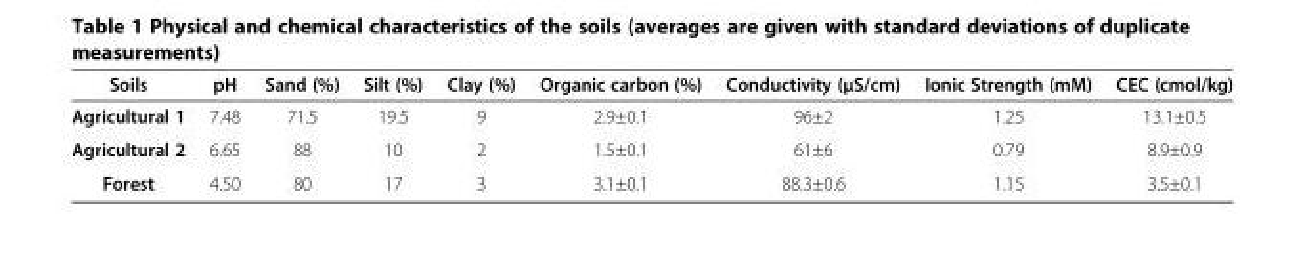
<table><thead><tr><td>Soils</td><td>pH</td><td>Sand (%)</td><td>Silt (%)</td><td>Clay (%)</td><td>Organic carbon (%)</td><td>Conductivity (μS/cm)</td><td>Ionic Strength (mM)</td><td>CEC (cmol/kg)</td></tr></thead><tbody><tr><td>Agricultural 1</td><td>7.48</td><td>71.5</td><td>19.5</td><td>9</td><td>2.9±0.1</td><td>96±2</td><td>1.25</td><td>13.1±0.5</td></tr><tr><td>Agricultural 2</td><td>6.65</td><td>88</td><td>10</td><td>2</td><td>1.5±0.1</td><td>61±6</td><td>0.79</td><td>8.9±0.9</td></tr><tr><td>Forest</td><td>4.50</td><td>80</td><td>17</td><td>3</td><td>3.1±0.1</td><td>88.3±0.6</td><td>1.15</td><td>3.5±0.1</td></tr></tbody></table>